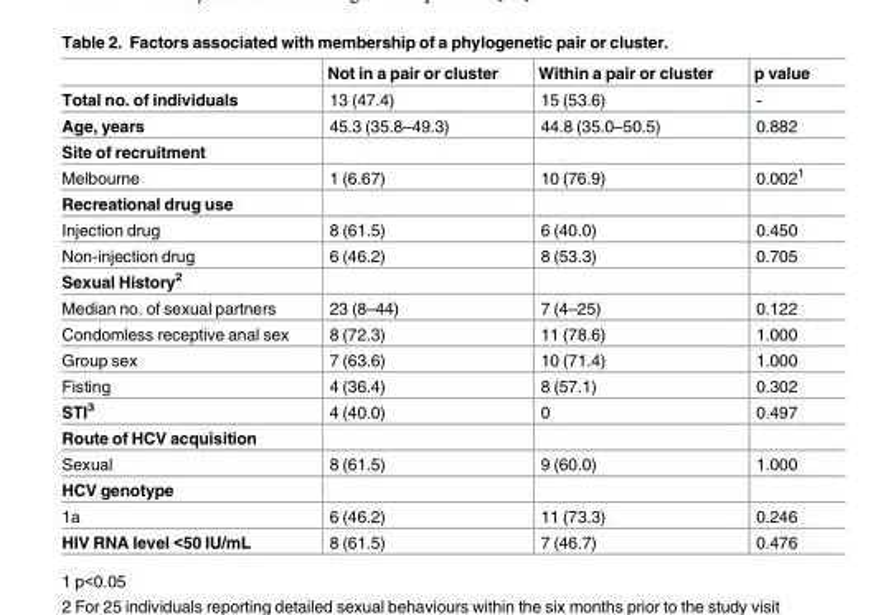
<table><thead><tr><td></td><td>Not in a pair or cluster</td><td>Within a pair or cluster</td><td>p value</td></tr></thead><tbody><tr><td>Total no. of individuals</td><td>13 (47.4)</td><td>15 (53.6)</td><td>-</td></tr><tr><td>Age, years</td><td>45.3 (35.8–49.3)</td><td>44.8 (35.0–50.5)</td><td>0.882</td></tr><tr><td colspan="4">Site of recruitment</td></tr><tr><td>Melbourne</td><td>1 (6.67)</td><td>10 (76.9)</td><td>0.002<sup>1</sup></td></tr><tr><td colspan="4">Recreational drug use</td></tr><tr><td>Injection drug</td><td>8 (61.5)</td><td>6 (40.0)</td><td>0.450</td></tr><tr><td>Non-injection drug</td><td>6 (46.2)</td><td>8 (53.3)</td><td>0.705</td></tr><tr><td colspan="4">Sexual History<sup>2</sup></td></tr><tr><td>Median no. of sexual partners</td><td>23 (8–44)</td><td>7 (4–25)</td><td>0.122</td></tr><tr><td>Condomless receptive anal sex</td><td>8 (72.3)</td><td>11 (78.6)</td><td>1.000</td></tr><tr><td>Group sex</td><td>7 (63.6)</td><td>10 (71.4)</td><td>1.000</td></tr><tr><td>Fisting</td><td>4 (36.4)</td><td>8 (57.1)</td><td>0.302</td></tr><tr><td>STI<sup>3</sup></td><td>4 (40.0)</td><td>0</td><td>0.497</td></tr><tr><td colspan="4">Route of HCV acquisition</td></tr><tr><td>Sexual</td><td>8 (61.5)</td><td>9 (60.0)</td><td>1.000</td></tr><tr><td colspan="4">HCV genotype</td></tr><tr><td>1a</td><td>6 (46.2)</td><td>11 (73.3)</td><td>0.246</td></tr><tr><td>HIV RNA level &lt;50 IU/mL</td><td>8 (61.5)</td><td>7 (46.7)</td><td>0.476</td></tr></tbody></table>